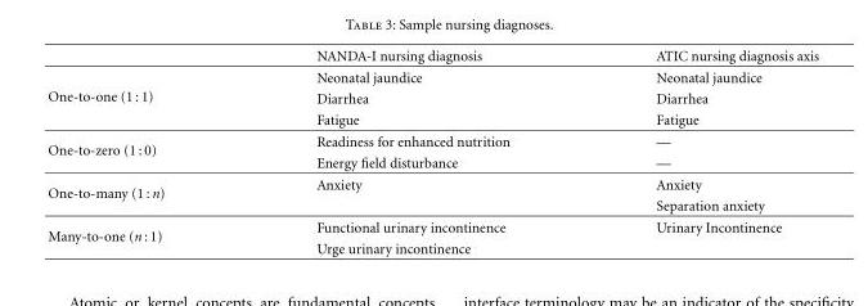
<table><thead><tr><td></td><td>NANDA-I nursing diagnosis</td><td>ATIC nursing diagnosis axis</td></tr></thead><tbody><tr><td rowspan="3">One-to-one (1 : 1)</td><td>Neonatal jaundice</td><td>Neonatal jaundice</td></tr><tr><td>Diarrhea</td><td>Diarrhea</td></tr><tr><td>Fatigue</td><td>Fatigue</td></tr><tr><td rowspan="2">One-to-zero (1 : 0)</td><td>Readiness for enhanced nutrition</td><td>—</td></tr><tr><td>Energy field disturbance</td><td>—</td></tr><tr><td rowspan="2">One-to-many (1 : n)</td><td>Anxiety</td><td>Anxiety</td></tr><tr><td></td><td>Separation anxiety</td></tr><tr><td rowspan="2">Many-to-one (n : 1)</td><td>Functional urinary incontinence</td><td>Urinary Incontinence</td></tr><tr><td>Urge urinary incontinence</td><td></td></tr></tbody></table>